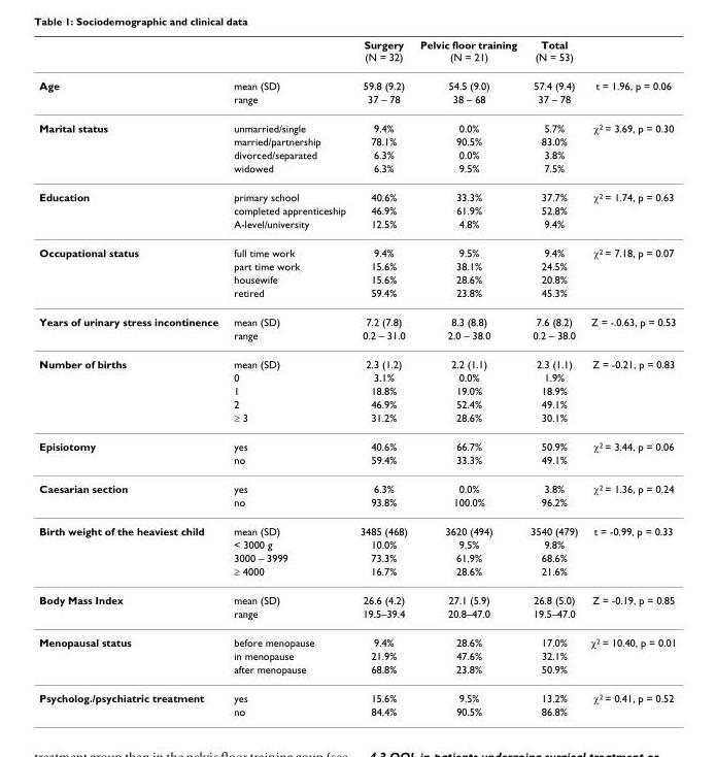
<table><thead><tr><td></td><td></td><td>Surgery (N = 32)</td><td>Pelvic floor training (N = 21)</td><td>Total (N = 53)</td><td></td></tr></thead><tbody><tr><td rowspan="2">Age</td><td>mean (SD)</td><td>59.8 (9.2)</td><td>54.5 (9.0)</td><td>57.4 (9.4)</td><td>t = 1.96, p = 0.06</td></tr><tr><td>range</td><td>37 – 78</td><td>38 – 68</td><td>37 – 78</td><td></td></tr><tr><td rowspan="4">Marital status</td><td>unmarried/single</td><td>9.4%</td><td>0.0%</td><td>5.7%</td><td>χ<sup>2</sup> = 3.69, p = 0.30</td></tr><tr><td>married/partnership</td><td>78.1%</td><td>90.5%</td><td>83.0%</td><td></td></tr><tr><td>divorced/separated</td><td>6.3%</td><td>0.0%</td><td>3.8%</td><td></td></tr><tr><td>widowed</td><td>6.3%</td><td>9.5%</td><td>7.5%</td><td></td></tr><tr><td rowspan="3">Education</td><td>primary school</td><td>40.6%</td><td>33.3%</td><td>37.7%</td><td>χ<sup>2</sup> = 1.74, p = 0.63</td></tr><tr><td>completed apprenticeship</td><td>46.9%</td><td>61.9%</td><td>52.8%</td><td></td></tr><tr><td>A-level/university</td><td>12.5%</td><td>4.8%</td><td>9.4%</td><td></td></tr><tr><td rowspan="4">Occupational status</td><td>full time work</td><td>9.4%</td><td>9.5%</td><td>9.4%</td><td>χ<sup>2</sup> = 7.18, p = 0.07</td></tr><tr><td>part time work</td><td>15.6%</td><td>38.1%</td><td>24.5%</td><td></td></tr><tr><td>housewife</td><td>15.6%</td><td>28.6%</td><td>20.8%</td><td></td></tr><tr><td>retired</td><td>59.4%</td><td>23.8%</td><td>45.3%</td><td></td></tr><tr><td rowspan="2">Years of urinary stress incontinence</td><td>mean (SD)</td><td>7.2 (7.8)</td><td>8.3 (8.8)</td><td>7.6 (8.2)</td><td>Z = -.0.63, p = 0.53</td></tr><tr><td>range</td><td>0.2 – 31.0</td><td>2.0 – 38.0</td><td>0.2 – 38.0</td><td></td></tr><tr><td rowspan="5">Number of births</td><td>mean (SD)</td><td>2.3 (1.2)</td><td>2.2 (1.1)</td><td>2.3 (1.1)</td><td>Z = -0.21, p = 0.83</td></tr><tr><td>0</td><td>3.1%</td><td>0.0%</td><td>1.9%</td><td></td></tr><tr><td>1</td><td>18.8%</td><td>19.0%</td><td>18.9%</td><td></td></tr><tr><td>2</td><td>46.9%</td><td>52.4%</td><td>49.1%</td><td></td></tr><tr><td>≥ 3</td><td>31.2%</td><td>28.6%</td><td>30.1%</td><td></td></tr><tr><td rowspan="2">Episiotomy</td><td>yes</td><td>40.6%</td><td>66.7%</td><td>50.9%</td><td>χ<sup>2</sup> = 3.44, p = 0.06</td></tr><tr><td>no</td><td>59.4%</td><td>33.3%</td><td>49.1%</td><td></td></tr><tr><td rowspan="2">Caesarian section</td><td>yes</td><td>6.3%</td><td>0.0%</td><td>3.8%</td><td>χ<sup>2</sup> = 1.36, p = 0.24</td></tr><tr><td>no</td><td>93.8%</td><td>100.0%</td><td>96.2%</td><td></td></tr><tr><td rowspan="4">Birth weight of the heaviest child</td><td>mean (SD)</td><td>3485 (468)</td><td>3620 (494)</td><td>3540 (479)</td><td>t = -0.99, p = 0.33</td></tr><tr><td>&lt; 3000 g</td><td>10.0%</td><td>9.5%</td><td>9.8%</td><td></td></tr><tr><td>3000 – 3999</td><td>73.3%</td><td>61.9%</td><td>68.6%</td><td></td></tr><tr><td>≥ 4000</td><td>16.7%</td><td>28.6%</td><td>21.6%</td><td></td></tr><tr><td rowspan="2">Body Mass Index</td><td>mean (SD)</td><td>26.6 (4.2)</td><td>27.1 (5.9)</td><td>26.8 (5.0)</td><td>Z = -0.19, p = 0.85</td></tr><tr><td>range</td><td>19.5–39.4</td><td>20.8–47.0</td><td>19.5–47.0</td><td></td></tr><tr><td rowspan="3">Menopausal status</td><td>before menopause</td><td>9.4%</td><td>28.6%</td><td>17.0%</td><td>χ<sup>2</sup> = 10.40, p = 0.01</td></tr><tr><td>in menopause</td><td>21.9%</td><td>47.6%</td><td>32.1%</td><td></td></tr><tr><td>after menopause</td><td>68.8%</td><td>23.8%</td><td>50.9%</td><td></td></tr><tr><td rowspan="2">Psycholog./psychiatric treatment</td><td>yes</td><td>15.6%</td><td>9.5%</td><td>13.2%</td><td>χ<sup>2</sup> = 0.41, p = 0.52</td></tr><tr><td>no</td><td>84.4%</td><td>90.5%</td><td>86.8%</td><td></td></tr></tbody></table>